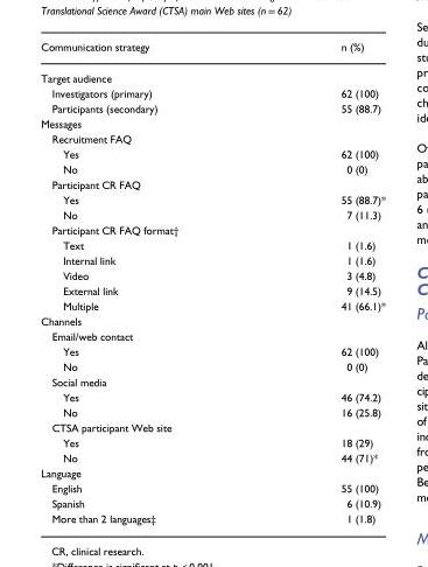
<table><thead><tr><td>Communication strategy</td><td>n (%)</td></tr></thead><tbody><tr><td colspan="2">Target audience</td></tr><tr><td>Investigators (primary)</td><td>62 (100)</td></tr><tr><td>Participants (secondary)</td><td>55 (88.7)</td></tr><tr><td colspan="2">Messages</td></tr><tr><td colspan="2">Recruitment FAQ</td></tr><tr><td>Yes</td><td>62 (100)</td></tr><tr><td>No</td><td>0 (0)</td></tr><tr><td colspan="2">Participant CR FAQ</td></tr><tr><td>Yes</td><td>55 (88.7)*</td></tr><tr><td>No</td><td>7 (11.3)</td></tr><tr><td colspan="2">Participant CR FAQ format†</td></tr><tr><td>Text</td><td>1 (1.6)</td></tr><tr><td>Internal link</td><td>1 (1.6)</td></tr><tr><td>Video</td><td>3 (4.8)</td></tr><tr><td>External link</td><td>9 (14.5)</td></tr><tr><td>Multiple</td><td>41 (66.1)*</td></tr><tr><td colspan="2">Channels</td></tr><tr><td colspan="2">Email/web contact</td></tr><tr><td>Yes</td><td>62 (100)</td></tr><tr><td>No</td><td>0 (0)</td></tr><tr><td colspan="2">Social media</td></tr><tr><td>Yes</td><td>46 (74.2)</td></tr><tr><td>No</td><td>16 (25.8)</td></tr><tr><td colspan="2">CTSA participant Web site</td></tr><tr><td>Yes</td><td>18 (29)</td></tr><tr><td>No</td><td>44 (71)*</td></tr><tr><td colspan="2">Language</td></tr><tr><td>English</td><td>55 (100)</td></tr><tr><td>Spanish</td><td>6 (10.9)</td></tr><tr><td>More than 2 languages‡</td><td>1 (1.8)</td></tr></tbody></table>